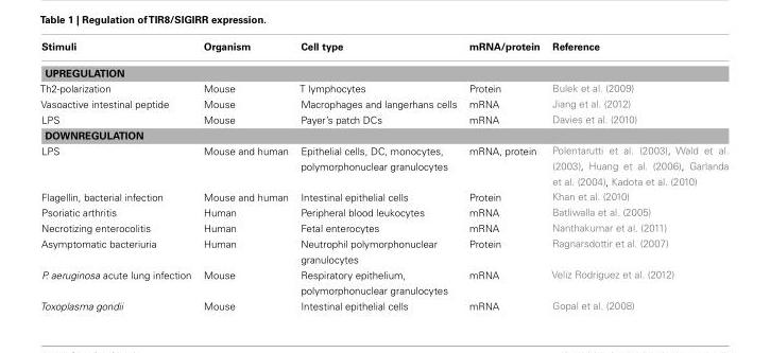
<table><thead><tr><td>Stimuli</td><td>Organism</td><td>Cell type</td><td>mRNA/protein</td><td>Reference</td></tr></thead><tbody><tr><td colspan="5">UPREGULATION</td></tr><tr><td>Th2-polarization</td><td>Mouse</td><td>T lymphocytes</td><td>Protein</td><td>Bulek et al. (2009)</td></tr><tr><td>Vasoactive intestinal peptide</td><td>Mouse</td><td>Macrophages and langerhans cells</td><td>mRNA</td><td>Jiang et al. (2012)</td></tr><tr><td>LPS</td><td>Mouse</td><td>Payer’s patch DCs</td><td>mRNA</td><td>Davies et al. (2010)</td></tr><tr><td colspan="5">DOWNREGULATION</td></tr><tr><td>LPS</td><td>Mouse and human</td><td>Epithelial cells, DC, monocytes, polymorphonuclear granulocytes</td><td>mRNA, protein</td><td>Polentarutti et al. (2003), Wald et al. (2003), Huang et al. (2006), Garlanda et al. (2004), Kadota et al. (2010)</td></tr><tr><td>Flagellin, bacterial infection</td><td>Mouse and human</td><td>Intestinal epithelial cells</td><td>Protein</td><td>Khan et al. (2010)</td></tr><tr><td>Psoriatic arthritis</td><td>Human</td><td>Peripheral blood leukocytes</td><td>mRNA</td><td>Batliwalla et al. (2005)</td></tr><tr><td>Necrotizing enterocolitis</td><td>Human</td><td>Fetal enterocytes</td><td>mRNA</td><td>Nanthakumar et al. (2011)</td></tr><tr><td>Asymptomatic bacteriuria</td><td>Human</td><td>Neutrophil polymorphonuclear granulocytes</td><td>Protein</td><td>Ragnarsdottir et al. (2007)</td></tr><tr><td>P. aeruginosa acute lung infection</td><td>Mouse</td><td>Respiratory epithelium, polymorphonuclear granulocytes</td><td>mRNA</td><td>Veliz Rodriguez et al. (2012)</td></tr><tr><td>Toxoplasma gondii</td><td>Mouse</td><td>Intestinal epithelial cells</td><td>mRNA</td><td>Gopal et al. (2008)</td></tr></tbody></table>